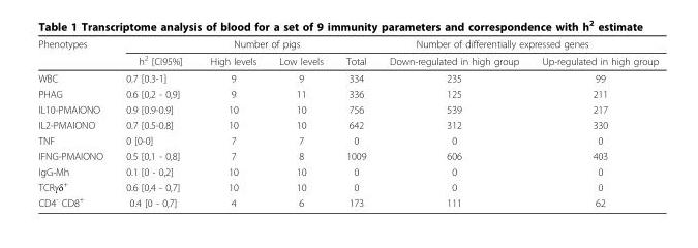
<table><thead><tr><td rowspan="2">Phenotypes</td><td rowspan="2">h<sup>2</sup> [CI95%]</td><td colspan="2">Number of pigs</td><td colspan="3">Number of differentially expressed genes</td></tr><tr><td>High levels</td><td>Low levels</td><td>Total</td><td>Down-regulated in high group</td><td>Up-regulated in high group</td></tr></thead><tbody><tr><td>WBC</td><td>0.7 [0.3-1]</td><td>9</td><td>9</td><td>334</td><td>235</td><td>99</td></tr><tr><td>PHAG</td><td>0.6 [0,2 - 0,9]</td><td>9</td><td>11</td><td>336</td><td>125</td><td>211</td></tr><tr><td>IL10-PMAIONO</td><td>0.9 [0.9-0.9]</td><td>10</td><td>10</td><td>756</td><td>539</td><td>217</td></tr><tr><td>IL2-PMAIONO</td><td>0.7 [0.5-0.8]</td><td>10</td><td>10</td><td>642</td><td>312</td><td>330</td></tr><tr><td>TNF</td><td>0 [0-0]</td><td>7</td><td>7</td><td>0</td><td>0</td><td>0</td></tr><tr><td>IFNG-PMAIONO</td><td>0.5 [0,1 - 0,8]</td><td>7</td><td>8</td><td>1009</td><td>606</td><td>403</td></tr><tr><td>IgG-Mh</td><td>0.1 [0 - 0,2]</td><td>10</td><td>10</td><td>0</td><td>0</td><td>0</td></tr><tr><td>TCRγδ<sup>+</sup></td><td>0.6 [0,4 - 0,7]</td><td>10</td><td>10</td><td>0</td><td>0</td><td>0</td></tr><tr><td>CD4<sup>-</sup> CD8<sup>+</sup></td><td>0.4 [0 - 0,7]</td><td>4</td><td>6</td><td>173</td><td>111</td><td>62</td></tr></tbody></table>